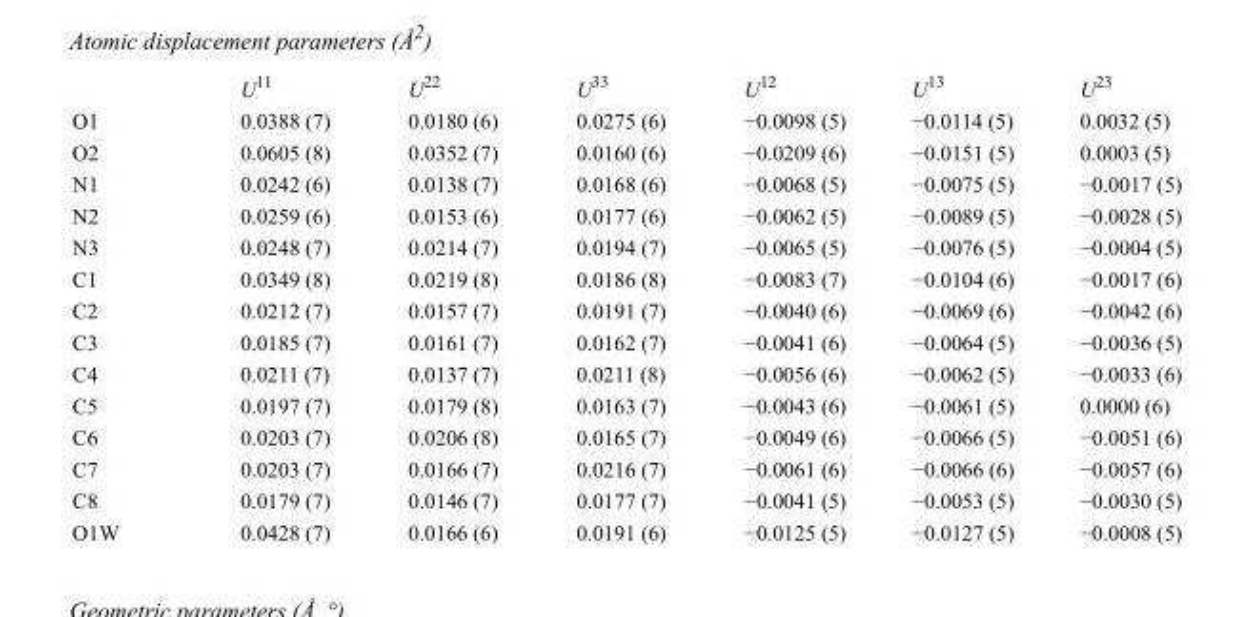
<table><thead><tr><td></td><td>U<sup>11</sup></td><td>U<sup>22</sup></td><td>U<sup>33</sup></td><td>U<sup>12</sup></td><td>U<sup>13</sup></td><td>U<sup>23</sup></td></tr></thead><tbody><tr><td>O1</td><td>0.0388 (7)</td><td>0.0180 (6)</td><td>0.0275 (6)</td><td>−0.0098 (5)</td><td>−0.0114 (5)</td><td>0.0032 (5)</td></tr><tr><td>O2</td><td>0.0605 (8)</td><td>0.0352 (7)</td><td>0.0160 (6)</td><td>−0.0209 (6)</td><td>−0.0151 (5)</td><td>0.0003 (5)</td></tr><tr><td>N1</td><td>0.0242 (6)</td><td>0.0138 (7)</td><td>0.0168 (6)</td><td>−0.0068 (5)</td><td>−0.0075 (5)</td><td>−0.0017 (5)</td></tr><tr><td>N2</td><td>0.0259 (6)</td><td>0.0153 (6)</td><td>0.0177 (6)</td><td>−0.0062 (5)</td><td>−0.0089 (5)</td><td>−0.0028 (5)</td></tr><tr><td>N3</td><td>0.0248 (7)</td><td>0.0214 (7)</td><td>0.0194 (7)</td><td>−0.0065 (5)</td><td>−0.0076 (5)</td><td>−0.0004 (5)</td></tr><tr><td>C1</td><td>0.0349 (8)</td><td>0.0219 (8)</td><td>0.0186 (8)</td><td>−0.0083 (7)</td><td>−0.0104 (6)</td><td>−0.0017 (6)</td></tr><tr><td>C2</td><td>0.0212 (7)</td><td>0.0157 (7)</td><td>0.0191 (7)</td><td>−0.0040 (6)</td><td>−0.0069 (6)</td><td>−0.0042 (6)</td></tr><tr><td>C3</td><td>0.0185 (7)</td><td>0.0161 (7)</td><td>0.0162 (7)</td><td>−0.0041 (6)</td><td>−0.0064 (5)</td><td>−0.0036 (5)</td></tr><tr><td>C4</td><td>0.0211 (7)</td><td>0.0137 (7)</td><td>0.0211 (8)</td><td>−0.0056 (6)</td><td>−0.0062 (5)</td><td>−0.0033 (6)</td></tr><tr><td>C5</td><td>0.0197 (7)</td><td>0.0179 (8)</td><td>0.0163 (7)</td><td>−0.0043 (6)</td><td>−0.0061 (5)</td><td>0.0000 (6)</td></tr><tr><td>C6</td><td>0.0203 (7)</td><td>0.0206 (8)</td><td>0.0165 (7)</td><td>−0.0049 (6)</td><td>−0.0066 (5)</td><td>−0.0051 (6)</td></tr><tr><td>C7</td><td>0.0203 (7)</td><td>0.0166 (7)</td><td>0.0216 (7)</td><td>−0.0061 (6)</td><td>−0.0066 (6)</td><td>−0.0057 (6)</td></tr><tr><td>C8</td><td>0.0179 (7)</td><td>0.0146 (7)</td><td>0.0177 (7)</td><td>−0.0041 (5)</td><td>−0.0053 (5)</td><td>−0.0030 (5)</td></tr><tr><td>O1W</td><td>0.0428 (7)</td><td>0.0166 (6)</td><td>0.0191 (6)</td><td>−0.0125 (5)</td><td>−0.0127 (5)</td><td>−0.0008 (5)</td></tr></tbody></table>